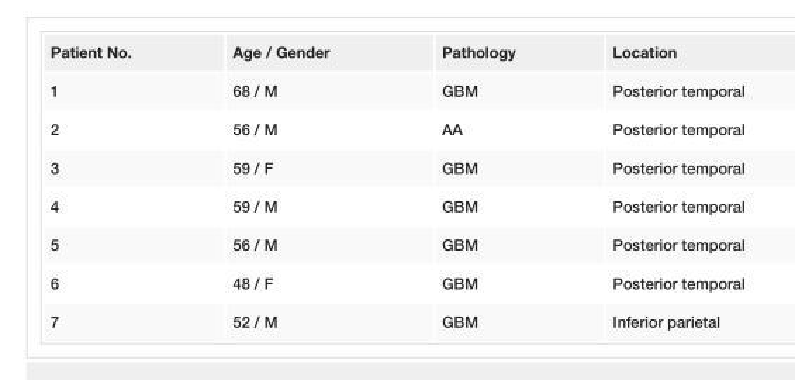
<table><tbody><tr><td>Patient No.</td><td>Age / Gender</td><td>Pathology</td><td>Location</td></tr><tr><td>1</td><td>68 / M</td><td>GBM</td><td>Posterior temporal</td></tr><tr><td>2</td><td>56 / M</td><td>AA</td><td>Posterior temporal</td></tr><tr><td>3</td><td>59 / F</td><td>GBM</td><td>Posterior temporal</td></tr><tr><td>4</td><td>59 / M</td><td>GBM</td><td>Posterior temporal</td></tr><tr><td>5</td><td>56 / M</td><td>GBM</td><td>Posterior temporal</td></tr><tr><td>6</td><td>48 / F</td><td>GBM</td><td>Posterior temporal</td></tr><tr><td>7</td><td>52 / M</td><td>GBM</td><td>Inferior parietal</td></tr></tbody></table>